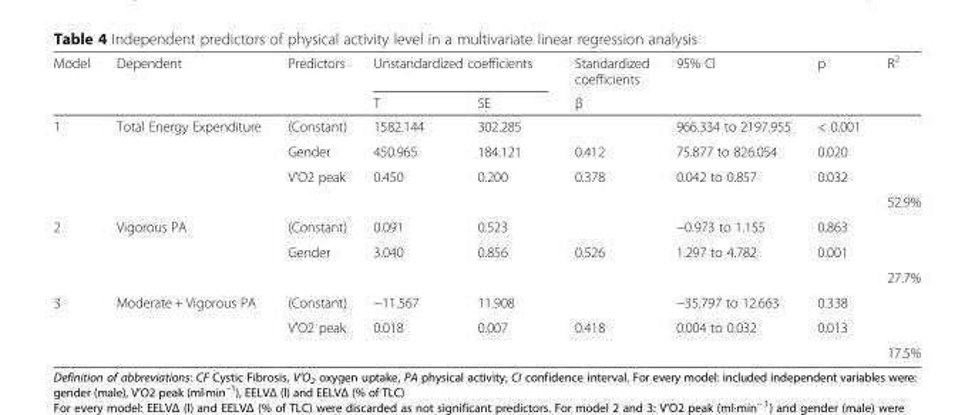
<table><thead><tr><td rowspan="2">Model</td><td rowspan="2">Dependent</td><td rowspan="2">Predictors</td><td colspan="2">Unstandardized coefficients</td><td rowspan="2">Standardized coefficients β</td><td rowspan="2">95% CI</td><td rowspan="2">p</td><td rowspan="2">R<sup>2</sup></td></tr><tr><td>T</td><td>SE</td></tr></thead><tbody><tr><td rowspan="4">1</td><td rowspan="3">Total Energy Expenditure</td><td>(Constant)</td><td>1582.144</td><td>302.285</td><td></td><td>966.334 to 2197.955</td><td>&lt; 0.001</td><td></td></tr><tr><td>Gender</td><td>450.965</td><td>184.121</td><td>0.412</td><td>75.877 to 826.054</td><td>0.020</td><td></td></tr><tr><td>V’O2 peak</td><td>0.450</td><td>0.200</td><td>0.378</td><td>0.042 to 0.857</td><td>0.032</td><td></td></tr><tr><td colspan="7"></td><td>52.9%</td></tr><tr><td rowspan="3">2</td><td rowspan="2">Vigorous PA</td><td>(Constant)</td><td>0.091</td><td>0.523</td><td></td><td>−0.973 to 1.155</td><td>0.863</td><td></td></tr><tr><td>Gender</td><td>3.040</td><td>0.856</td><td>0.526</td><td>1.297 to 4.782</td><td>0.001</td><td></td></tr><tr><td colspan="7"></td><td>27.7%</td></tr><tr><td rowspan="3">3</td><td rowspan="2">Moderate + Vigorous PA</td><td>(Constant)</td><td>−11.567</td><td>11.908</td><td></td><td>−35.797 to 12.663</td><td>0.338</td><td></td></tr><tr><td>VˈO2 peak</td><td>0.018</td><td>0.007</td><td>0.418</td><td>0.004 to 0.032</td><td>0.013</td><td></td></tr><tr><td colspan="7"></td><td>17.5%</td></tr></tbody></table>